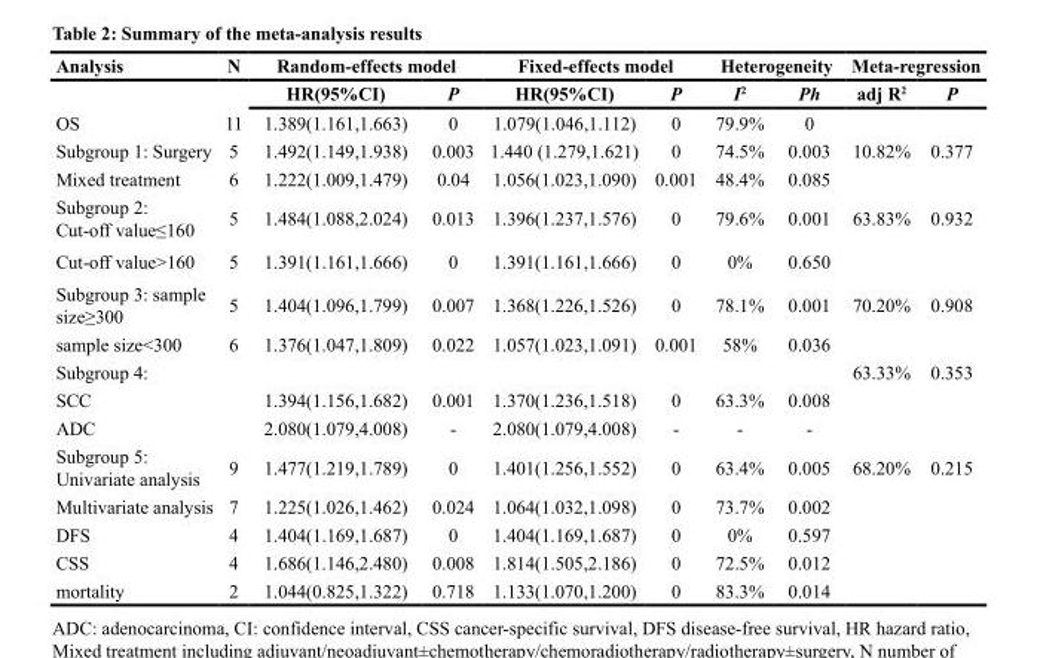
<table><thead><tr><td rowspan="2">Analysis</td><td rowspan="2">N</td><td colspan="2">Random-effects model</td><td colspan="2">Fixed-effects model</td><td colspan="2">Heterogeneity</td><td colspan="2">Meta-regression</td></tr><tr><td>HR(95%CI)</td><td>P</td><td>HR(95%CI)</td><td>P</td><td>I<sup>2</sup></td><td>Ph</td><td>adj R<sup>2</sup></td><td>P</td></tr></thead><tbody><tr><td>OS</td><td>11</td><td>1.389(1.161,1.663)</td><td>0</td><td>1.079(1.046,1.112)</td><td>0</td><td>79.9%</td><td>0</td><td></td><td></td></tr><tr><td>Subgroup 1: Surgery</td><td>5</td><td>1.492(1.149,1.938)</td><td>0.003</td><td>1.440 (1.279,1.621)</td><td>0</td><td>74.5%</td><td>0.003</td><td>10.82%</td><td>0.377</td></tr><tr><td>Mixed treatment</td><td>6</td><td>1.222(1.009,1.479)</td><td>0.04</td><td>1.056(1.023,1.090)</td><td>0.001</td><td>48.4%</td><td>0.085</td><td></td><td></td></tr><tr><td>Subgroup 2: Cut-off value≤160</td><td>5</td><td>1.484(1.088,2.024)</td><td>0.013</td><td>1.396(1.237,1.576)</td><td>0</td><td>79.6%</td><td>0.001</td><td>63.83%</td><td>0.932</td></tr><tr><td>Cut-off value&gt;160</td><td>5</td><td>1.391(1.161,1.666)</td><td>0</td><td>1.391(1.161,1.666)</td><td>0</td><td>0%</td><td>0.650</td><td></td><td></td></tr><tr><td>Subgroup 3: sample size≥300</td><td>5</td><td>1.404(1.096,1.799)</td><td>0.007</td><td>1.368(1.226,1.526)</td><td>0</td><td>78.1%</td><td>0.001</td><td>70.20%</td><td>0.908</td></tr><tr><td>sample size&lt;300</td><td>6</td><td>1.376(1.047,1.809)</td><td>0.022</td><td>1.057(1.023,1.091)</td><td>0.001</td><td>58%</td><td>0.036</td><td></td><td></td></tr><tr><td>Subgroup 4:</td><td></td><td></td><td></td><td></td><td></td><td></td><td></td><td>63.33%</td><td>0.353</td></tr><tr><td>SCC</td><td></td><td>1.394(1.156,1.682)</td><td>0.001</td><td>1.370(1.236,1.518)</td><td>0</td><td>63.3%</td><td>0.008</td><td></td><td></td></tr><tr><td>ADC</td><td></td><td>2.080(1.079,4.008)</td><td>-</td><td>2.080(1.079,4.008)</td><td>-</td><td>-</td><td>-</td><td></td><td></td></tr><tr><td>Subgroup 5: Univariate analysis</td><td>9</td><td>1.477(1.219,1.789)</td><td>0</td><td>1.401(1.256,1.552)</td><td>0</td><td>63.4%</td><td>0.005</td><td>68.20%</td><td>0.215</td></tr><tr><td>Multivariate analysis</td><td>7</td><td>1.225(1.026,1.462)</td><td>0.024</td><td>1.064(1.032,1.098)</td><td>0</td><td>73.7%</td><td>0.002</td><td></td><td></td></tr><tr><td>DFS</td><td>4</td><td>1.404(1.169,1.687)</td><td>0</td><td>1.404(1.169,1.687)</td><td>0</td><td>0%</td><td>0.597</td><td></td><td></td></tr><tr><td>CSS</td><td>4</td><td>1.686(1.146,2.480)</td><td>0.008</td><td>1.814(1.505,2.186)</td><td>0</td><td>72.5%</td><td>0.012</td><td></td><td></td></tr><tr><td>mortality</td><td>2</td><td>1.044(0.825,1.322)</td><td>0.718</td><td>1.133(1.070,1.200)</td><td>0</td><td>83.3%</td><td>0.014</td><td></td><td></td></tr></tbody></table>